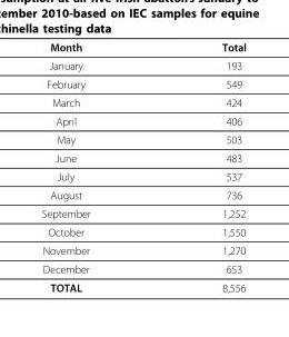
<table><thead><tr><td>Month</td><td>Total</td></tr></thead><tbody><tr><td>January</td><td>193</td></tr><tr><td>February</td><td>549</td></tr><tr><td>March</td><td>424</td></tr><tr><td>April</td><td>406</td></tr><tr><td>May</td><td>503</td></tr><tr><td>June</td><td>483</td></tr><tr><td>July</td><td>537</td></tr><tr><td>August</td><td>736</td></tr><tr><td>September</td><td>1,252</td></tr><tr><td>October</td><td>1,550</td></tr><tr><td>November</td><td>1,270</td></tr><tr><td>December</td><td>653</td></tr><tr><td>TOTAL</td><td>8,556</td></tr></tbody></table>